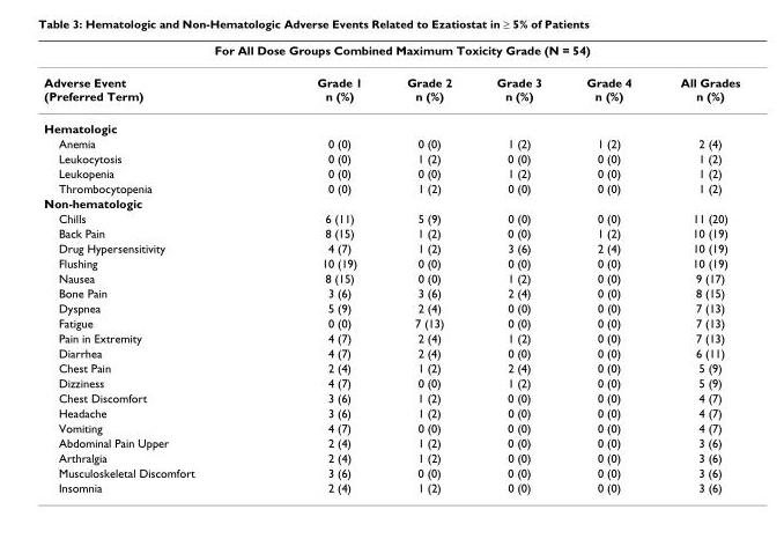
<table><thead><tr><td colspan="6">For All Dose Groups Combined Maximum Toxicity Grade (N = 54)</td></tr><tr><td>Adverse Event (Preferred Term)</td><td>Grade 1 n (%)</td><td>Grade 2 n (%)</td><td>Grade 3 n (%)</td><td>Grade 4 n (%)</td><td>All Grades n (%)</td></tr></thead><tbody><tr><td colspan="6">Hematologic</td></tr><tr><td>Anemia</td><td>0 (0)</td><td>0 (0)</td><td>1 (2)</td><td>1 (2)</td><td>2 (4)</td></tr><tr><td>Leukocytosis</td><td>0 (0)</td><td>1 (2)</td><td>0 (0)</td><td>0 (0)</td><td>1 (2)</td></tr><tr><td>Leukopenia</td><td>0 (0)</td><td>0 (0)</td><td>1 (2)</td><td>0 (0)</td><td>1 (2)</td></tr><tr><td>Thrombocytopenia</td><td>0 (0)</td><td>1 (2)</td><td>0 (0)</td><td>0 (0)</td><td>1 (2)</td></tr><tr><td colspan="6">Non-hematologic</td></tr><tr><td>Chills</td><td>6 (11)</td><td>5 (9)</td><td>0 (0)</td><td>0 (0)</td><td>11 (20)</td></tr><tr><td>Back Pain</td><td>8 (15)</td><td>1 (2)</td><td>0 (0)</td><td>1 (2)</td><td>10 (19)</td></tr><tr><td>Drug Hypersensitivity</td><td>4 (7)</td><td>1 (2)</td><td>3 (6)</td><td>2 (4)</td><td>10 (19)</td></tr><tr><td>Flushing</td><td>10 (19)</td><td>0 (0)</td><td>0 (0)</td><td>0 (0)</td><td>10 (19)</td></tr><tr><td>Nausea</td><td>8 (15)</td><td>0 (0)</td><td>1 (2)</td><td>0 (0)</td><td>9 (17)</td></tr><tr><td>Bone Pain</td><td>3 (6)</td><td>3 (6)</td><td>2 (4)</td><td>0 (0)</td><td>8 (15)</td></tr><tr><td>Dyspnea</td><td>5 (9)</td><td>2 (4)</td><td>0 (0)</td><td>0 (0)</td><td>7 (13)</td></tr><tr><td>Fatigue</td><td>0 (0)</td><td>7 (13)</td><td>0 (0)</td><td>0 (0)</td><td>7 (13)</td></tr><tr><td>Pain in Extremity</td><td>4 (7)</td><td>2 (4)</td><td>1 (2)</td><td>0 (0)</td><td>7 (13)</td></tr><tr><td>Diarrhea</td><td>4 (7)</td><td>2 (4)</td><td>0 (0)</td><td>0 (0)</td><td>6 (11)</td></tr><tr><td>Chest Pain</td><td>2 (4)</td><td>1 (2)</td><td>2 (4)</td><td>0 (0)</td><td>5 (9)</td></tr><tr><td>Dizziness</td><td>4 (7)</td><td>0 (0)</td><td>1 (2)</td><td>0 (0)</td><td>5 (9)</td></tr><tr><td>Chest Discomfort</td><td>3 (6)</td><td>1 (2)</td><td>0 (0)</td><td>0 (0)</td><td>4 (7)</td></tr><tr><td>Headache</td><td>3 (6)</td><td>1 (2)</td><td>0 (0)</td><td>0 (0)</td><td>4 (7)</td></tr><tr><td>Vomiting</td><td>4 (7)</td><td>0 (0)</td><td>0 (0)</td><td>0 (0)</td><td>4 (7)</td></tr><tr><td>Abdominal Pain Upper</td><td>2 (4)</td><td>1 (2)</td><td>0 (0)</td><td>0 (0)</td><td>3 (6)</td></tr><tr><td>Arthralgia</td><td>2 (4)</td><td>1 (2)</td><td>0 (0)</td><td>0 (0)</td><td>3 (6)</td></tr><tr><td>Musculoskeletal Discomfort</td><td>3 (6)</td><td>0 (0)</td><td>0 (0)</td><td>0 (0)</td><td>3 (6)</td></tr><tr><td>Insomnia</td><td>2 (4)</td><td>1 (2)</td><td>0 (0)</td><td>0 (0)</td><td>3 (6)</td></tr></tbody></table>